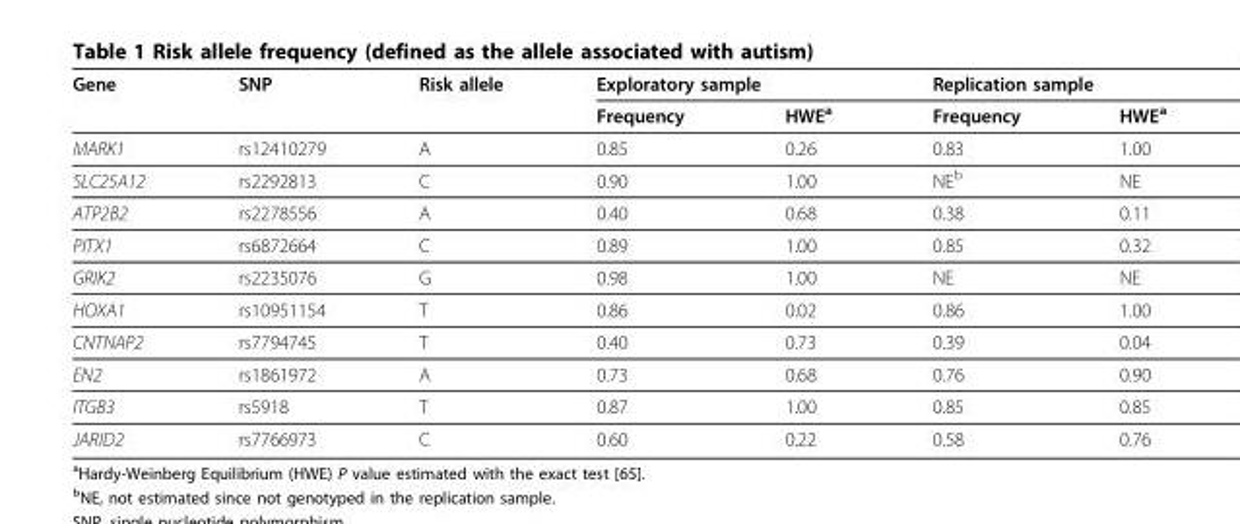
<table><thead><tr><td rowspan="2">Gene</td><td rowspan="2">SNP</td><td rowspan="2">Risk allele</td><td colspan="2">Exploratory sample</td><td colspan="2">Replication sample</td></tr><tr><td>Frequency</td><td>HWE<sup>a</sup></td><td>Frequency</td><td>HWE<sup>a</sup></td></tr></thead><tbody><tr><td>MARK1</td><td>rs12410279</td><td>A</td><td>0.85</td><td>0.26</td><td>0.83</td><td>1.00</td></tr><tr><td>SLC25A12</td><td>rs2292813</td><td>C</td><td>0.90</td><td>1.00</td><td>NE<sup>b</sup></td><td>NE</td></tr><tr><td>ATP2B2</td><td>rs2278556</td><td>A</td><td>0.40</td><td>0.68</td><td>0.38</td><td>0.11</td></tr><tr><td>PITX1</td><td>rs6872664</td><td>C</td><td>0.89</td><td>1.00</td><td>0.85</td><td>0.32</td></tr><tr><td>GRIK2</td><td>rs2235076</td><td>G</td><td>0.98</td><td>1.00</td><td>NE</td><td>NE</td></tr><tr><td>HOXA1</td><td>rs10951154</td><td>T</td><td>0.86</td><td>0.02</td><td>0.86</td><td>1.00</td></tr><tr><td>CNTNAP2</td><td>rs7794745</td><td>T</td><td>0.40</td><td>0.73</td><td>0.39</td><td>0.04</td></tr><tr><td>EN2</td><td>rs1861972</td><td>A</td><td>0.73</td><td>0.68</td><td>0.76</td><td>0.90</td></tr><tr><td>ITGB3</td><td>rs5918</td><td>T</td><td>0.87</td><td>1.00</td><td>0.85</td><td>0.85</td></tr><tr><td>JARID2</td><td>rs7766973</td><td>C</td><td>0.60</td><td>0.22</td><td>0.58</td><td>0.76</td></tr></tbody></table>